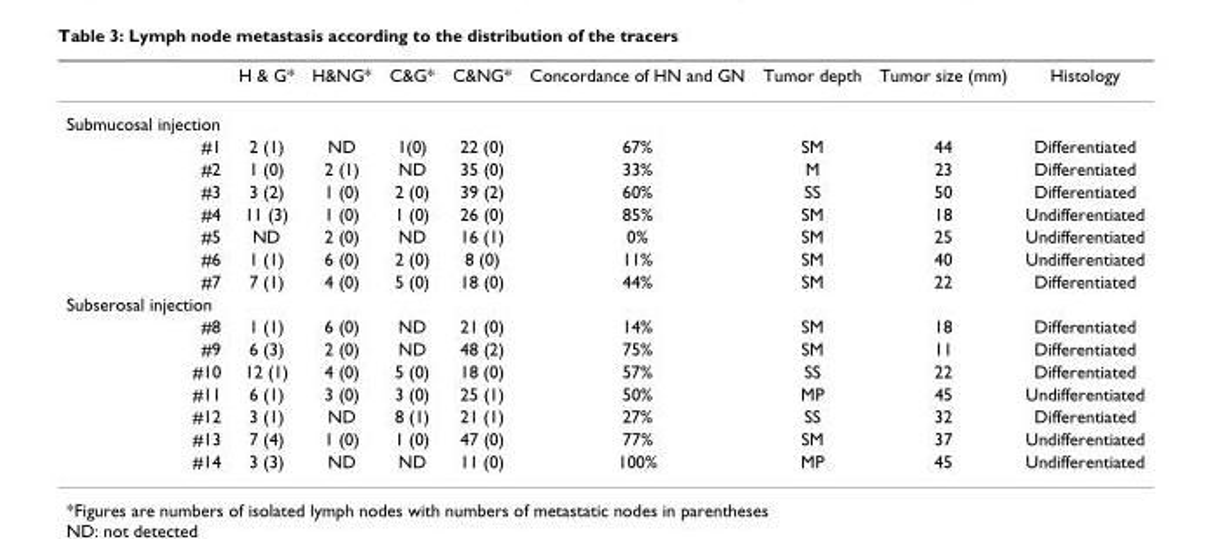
<table><thead><tr><td></td><td>H &amp; G*</td><td>H&amp;NG*</td><td>C&amp;G*</td><td>C&amp;NG*</td><td>Concordance of HN and GN</td><td>Tumor depth</td><td>Tumor size (mm)</td><td>Histology</td></tr></thead><tbody><tr><td colspan="9">Submucosal injection</td></tr><tr><td>#1</td><td>2 (1)</td><td>ND</td><td>1(0)</td><td>22 (0)</td><td>67%</td><td>SM</td><td>44</td><td>Differentiated</td></tr><tr><td>#2</td><td>1 (0)</td><td>2 (1)</td><td>ND</td><td>35 (0)</td><td>33%</td><td>M</td><td>23</td><td>Differentiated</td></tr><tr><td>#3</td><td>3 (2)</td><td>1 (0)</td><td>2 (0)</td><td>39 (2)</td><td>60%</td><td>SS</td><td>50</td><td>Differentiated</td></tr><tr><td>#4</td><td>11 (3)</td><td>1 (0)</td><td>1 (0)</td><td>26 (0)</td><td>85%</td><td>SM</td><td>18</td><td>Undifferentiated</td></tr><tr><td>#5</td><td>ND</td><td>2 (0)</td><td>ND</td><td>16 (1)</td><td>0%</td><td>SM</td><td>25</td><td>Undifferentiated</td></tr><tr><td>#6</td><td>1 (1)</td><td>6 (0)</td><td>2 (0)</td><td>8 (0)</td><td>11%</td><td>SM</td><td>40</td><td>Undifferentiated</td></tr><tr><td>#7</td><td>7 (1)</td><td>4 (0)</td><td>5 (0)</td><td>18 (0)</td><td>44%</td><td>SM</td><td>22</td><td>Differentiated</td></tr><tr><td colspan="9">Subserosal injection</td></tr><tr><td>#8</td><td>1 (1)</td><td>6 (0)</td><td>ND</td><td>21 (0)</td><td>14%</td><td>SM</td><td>18</td><td>Differentiated</td></tr><tr><td>#9</td><td>6 (3)</td><td>2 (0)</td><td>ND</td><td>48 (2)</td><td>75%</td><td>SM</td><td>11</td><td>Differentiated</td></tr><tr><td>#10</td><td>12 (1)</td><td>4 (0)</td><td>5 (0)</td><td>18 (0)</td><td>57%</td><td>SS</td><td>22</td><td>Differentiated</td></tr><tr><td>#11</td><td>6 (1)</td><td>3 (0)</td><td>3 (0)</td><td>25 (1)</td><td>50%</td><td>MP</td><td>45</td><td>Undifferentiated</td></tr><tr><td>#12</td><td>3 (1)</td><td>ND</td><td>8 (1)</td><td>21 (1)</td><td>27%</td><td>SS</td><td>32</td><td>Differentiated</td></tr><tr><td>#13</td><td>7 (4)</td><td>1 (0)</td><td>1 (0)</td><td>47 (0)</td><td>77%</td><td>SM</td><td>37</td><td>Undifferentiated</td></tr><tr><td>#14</td><td>3 (3)</td><td>ND</td><td>ND</td><td>11 (0)</td><td>100%</td><td>MP</td><td>45</td><td>Undifferentiated</td></tr></tbody></table>